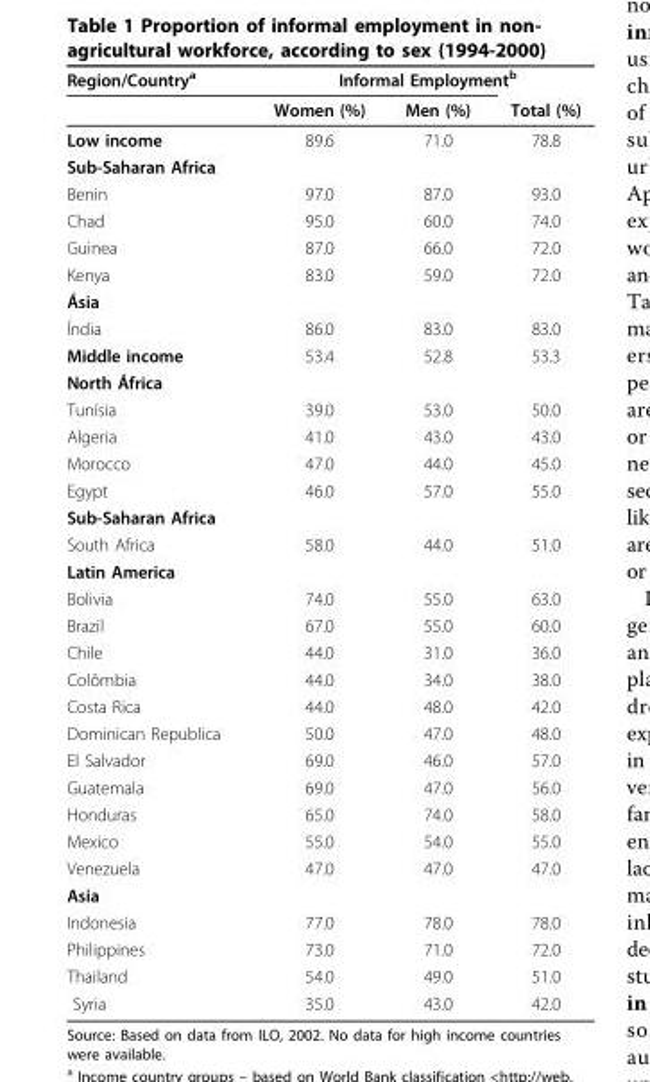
<table><thead><tr><td rowspan="2">Region/Country<sup>a</sup></td><td colspan="3">Informal Employment<sup>b</sup></td></tr><tr><td>Women (%)</td><td>Men (%)</td><td>Total (%)</td></tr></thead><tbody><tr><td>Low income</td><td>89.6</td><td>71.0</td><td>78.8</td></tr><tr><td colspan="4">Sub-Saharan Africa</td></tr><tr><td>Benin</td><td>97.0</td><td>87.0</td><td>93.0</td></tr><tr><td>Chad</td><td>95.0</td><td>60.0</td><td>74.0</td></tr><tr><td>Guinea</td><td>87.0</td><td>66.0</td><td>72.0</td></tr><tr><td>Kenya</td><td>83.0</td><td>59.0</td><td>72.0</td></tr><tr><td colspan="4">Ásia</td></tr><tr><td>Índia</td><td>86.0</td><td>83.0</td><td>83.0</td></tr><tr><td>Middle income</td><td>53.4</td><td>52.8</td><td>53.3</td></tr><tr><td colspan="4">North África</td></tr><tr><td>Tunísia</td><td>39.0</td><td>53.0</td><td>50.0</td></tr><tr><td>Algeria</td><td>41.0</td><td>43.0</td><td>43.0</td></tr><tr><td>Morocco</td><td>47.0</td><td>44.0</td><td>45.0</td></tr><tr><td>Egypt</td><td>46.0</td><td>57.0</td><td>55.0</td></tr><tr><td colspan="4">Sub-Saharan Africa</td></tr><tr><td>South Africa</td><td>58.0</td><td>44.0</td><td>51.0</td></tr><tr><td colspan="4">Latin America</td></tr><tr><td>Bolivia</td><td>74.0</td><td>55.0</td><td>63.0</td></tr><tr><td>Brazil</td><td>67.0</td><td>55.0</td><td>60.0</td></tr><tr><td>Chile</td><td>44.0</td><td>31.0</td><td>36.0</td></tr><tr><td>Colômbia</td><td>44.0</td><td>34.0</td><td>38.0</td></tr><tr><td>Costa Rica</td><td>44.0</td><td>48.0</td><td>42.0</td></tr><tr><td>Dominican Republica</td><td>50.0</td><td>47.0</td><td>48.0</td></tr><tr><td>El Salvador</td><td>69.0</td><td>46.0</td><td>57.0</td></tr><tr><td>Guatemala</td><td>69.0</td><td>47.0</td><td>56.0</td></tr><tr><td>Honduras</td><td>65.0</td><td>74.0</td><td>58.0</td></tr><tr><td>Mexico</td><td>55.0</td><td>54.0</td><td>55.0</td></tr><tr><td>Venezuela</td><td>47.0</td><td>47.0</td><td>47.0</td></tr><tr><td colspan="4">Asia</td></tr><tr><td>Indonesia</td><td>77.0</td><td>78.0</td><td>78.0</td></tr><tr><td>Philippines</td><td>73.0</td><td>71.0</td><td>72.0</td></tr><tr><td>Thailand</td><td>54.0</td><td>49.0</td><td>51.0</td></tr><tr><td>Syria</td><td>35.0</td><td>43.0</td><td>42.0</td></tr></tbody></table>